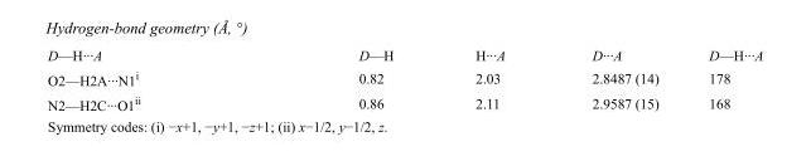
<table><tbody><tr><td>D—H···A</td><td>D—H</td><td>H···A</td><td>D···A</td><td>D—H···A</td></tr><tr><td>O2—H2A···N1<sup>i</sup></td><td>0.82</td><td>2.03</td><td>2.8487 (14)</td><td>178</td></tr><tr><td>N2—H2C···O1<sup>ii</sup></td><td>0.86</td><td>2.11</td><td>2.9587 (15)</td><td>168</td></tr></tbody></table>